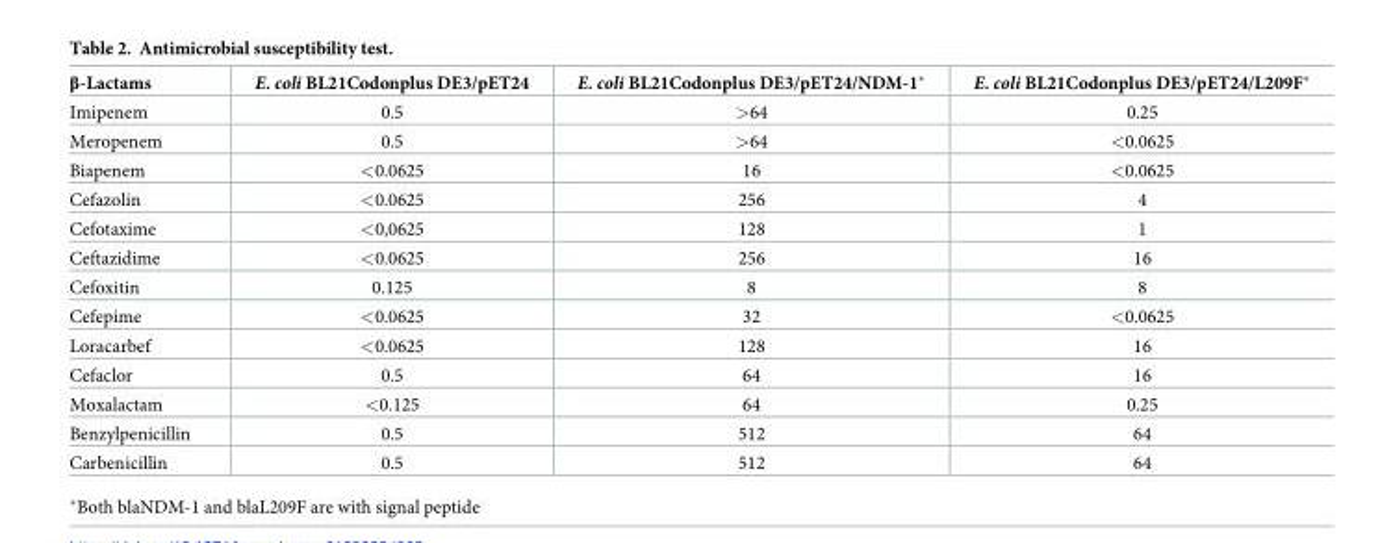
<table><thead><tr><td>β-Lactams</td><td>E. coli BL21Codonplus DE3/pET24</td><td>E. coli BL21Codonplus DE3/pET24/NDM-1*</td><td>E. coli BL21Codonplus DE3/pET24/L209F*</td></tr></thead><tbody><tr><td>Imipenem</td><td>0.5</td><td>&gt;64</td><td>0.25</td></tr><tr><td>Meropenem</td><td>0.5</td><td>&gt;64</td><td>&lt;0.0625</td></tr><tr><td>Biapenem</td><td>&lt;0.0625</td><td>16</td><td>&lt;0.0625</td></tr><tr><td>Cefazolin</td><td>&lt;0.0625</td><td>256</td><td>4</td></tr><tr><td>Cefotaxime</td><td>&lt;0,0625</td><td>128</td><td>1</td></tr><tr><td>Ceftazidime</td><td>&lt;0.0625</td><td>256</td><td>16</td></tr><tr><td>Cefoxitin</td><td>0.125</td><td>8</td><td>8</td></tr><tr><td>Cefepime</td><td>&lt;0.0625</td><td>32</td><td>&lt;0.0625</td></tr><tr><td>Loracarbef</td><td>&lt;0.0625</td><td>128</td><td>16</td></tr><tr><td>Cefaclor</td><td>0.5</td><td>64</td><td>16</td></tr><tr><td>Moxalactam</td><td>&lt;0.125</td><td>64</td><td>0.25</td></tr><tr><td>Benzylpenicillin</td><td>0.5</td><td>512</td><td>64</td></tr><tr><td>Carbenicillin</td><td>0.5</td><td>512</td><td>64</td></tr></tbody></table>